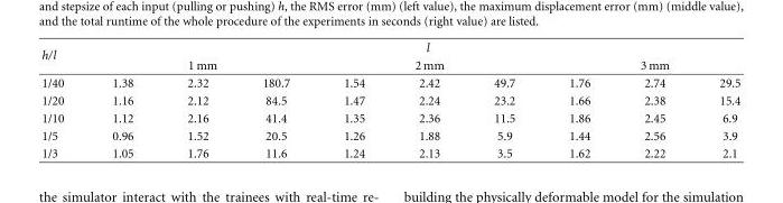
<table><thead><tr><td rowspan="3">h/l 1/40</td><td colspan="9">l</td></tr><tr><td colspan="3">1 mm</td><td colspan="3">2 mm</td><td colspan="3">3 mm</td></tr><tr><td>1.38</td><td>2.32</td><td>180.7</td><td>1.54</td><td>2.42</td><td>49.7</td><td>1.76</td><td>2.74</td><td>29.5</td></tr></thead><tbody><tr><td>1/20</td><td>1.16</td><td>2.12</td><td>84.5</td><td>1.47</td><td>2.24</td><td>23.2</td><td>1.66</td><td>2.38</td><td>15.4</td></tr><tr><td>1/10</td><td>1.12</td><td>2.16</td><td>41.4</td><td>1.35</td><td>2.36</td><td>11.5</td><td>1.86</td><td>2.45</td><td>6.9</td></tr><tr><td>1/5</td><td>0.96</td><td>1.52</td><td>20.5</td><td>1.26</td><td>1.88</td><td>5.9</td><td>1.44</td><td>2.56</td><td>3.9</td></tr><tr><td>1/3</td><td>1.05</td><td>1.76</td><td>11.6</td><td>1.24</td><td>2.13</td><td>3.5</td><td>1.62</td><td>2.22</td><td>2.1</td></tr></tbody></table>